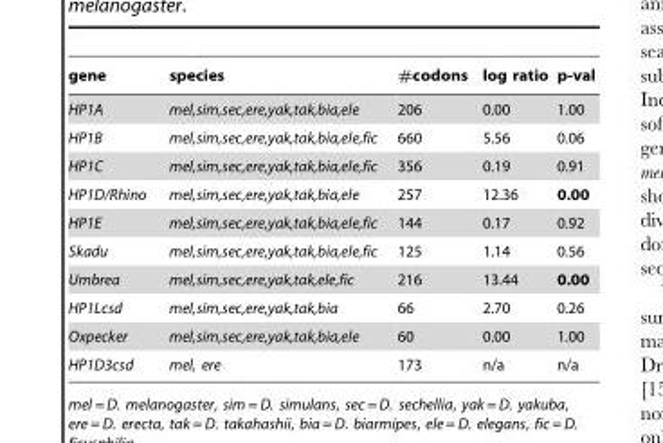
<table><thead><tr><td>gene</td><td>species</td><td>#codons</td><td>log ratio</td><td>p-val</td></tr></thead><tbody><tr><td>HP1A</td><td>mel,sim,sec,ere,yak,tak,bia,ele</td><td>206</td><td>0.00</td><td>1.00</td></tr><tr><td>HP1B</td><td>mel,sim,sec,ere,yak,tak,bia,ele,fic</td><td>660</td><td>5.56</td><td>0.06</td></tr><tr><td>HP1C</td><td>mel,sim,sec,ere,yak,tak,bia,ele,fic</td><td>356</td><td>0.19</td><td>0.91</td></tr><tr><td>HP1D/Rhino</td><td>mel,sim,sec,ere,yak,tak,bia,ele</td><td>257</td><td>12.36</td><td>0.00</td></tr><tr><td>HP1E</td><td>mel,sim,sec,ere,yak,tak,bia,ele,fic</td><td>144</td><td>0.17</td><td>0.92</td></tr><tr><td>Skadu</td><td>mel,sim,sec,ere,yak,tak,bia,ele,fic</td><td>125</td><td>1.14</td><td>0.56</td></tr><tr><td>Umbrea</td><td>mel,sim,sec,ere,yak,tak,ele,fic</td><td>216</td><td>13.44</td><td>0.00</td></tr><tr><td>HP1Lcsd</td><td>mel,sim,sec,ere,yak,tak,bia</td><td>66</td><td>2.70</td><td>0.26</td></tr><tr><td>Oxpecker</td><td>mel,sim,sec,ere,yak,tak,bia,ele</td><td>60</td><td>0.00</td><td>1.00</td></tr><tr><td>HP1D3csd</td><td>mel, ere</td><td>173</td><td>n/a</td><td>n/a</td></tr></tbody></table>